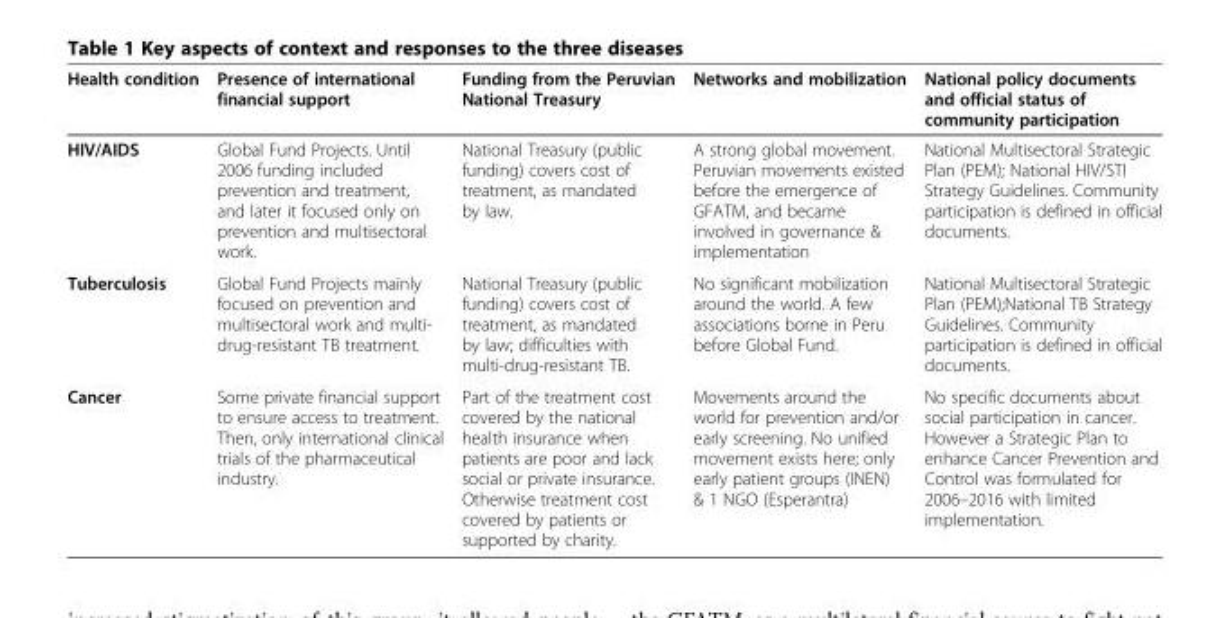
<table><thead><tr><td>Health condition</td><td>Presence of international financial support</td><td>Funding from the Peruvian National Treasury</td><td>Networks and mobilization</td><td>National policy documents and official status of community participation</td></tr></thead><tbody><tr><td>HIV/AIDS</td><td>Global Fund Projects. Until 2006 funding included prevention and treatment, and later it focused only on prevention and multisectoral work.</td><td>National Treasury (public funding) covers cost of treatment, as mandated by law.</td><td>A strong global movement. Peruvian movements existed before the emergence of GFATM, and became involved in governance &amp; implementation</td><td>National Multisectoral Strategic Plan (PEM); National HIV/STI Strategy Guidelines. Community participation is defined in official documents.</td></tr><tr><td>Tuberculosis</td><td>Global Fund Projects mainly focused on prevention and multisectoral work and multi- drug-resistant TB treatment.</td><td>National Treasury (public funding) covers cost of treatment, as mandated by law; difficulties with multi-drug-resistant TB.</td><td>No significant mobilization around the world. A few associations borne in Peru before Global Fund.</td><td>National Multisectoral Strategic Plan (PEM);National TB Strategy Guidelines. Community participation is defined in official documents.</td></tr><tr><td>Cancer</td><td>Some private financial support to ensure access to treatment. Then, only international clinical trials of the pharmaceutical industry.</td><td>Part of the treatment cost covered by the national health insurance when patients are poor and lack social or private insurance. Otherwise treatment cost covered by patients or supported by charity.</td><td>Movements around the world for prevention and/or early screening. No unified movement exists here; only early patient groups (INEN) &amp; 1 NGO (Esperantra)</td><td>No specific documents about social participation in cancer. However a Strategic Plan to enhance Cancer Prevention and Control was formulated for 2006–2016 with limited implementation.</td></tr></tbody></table>